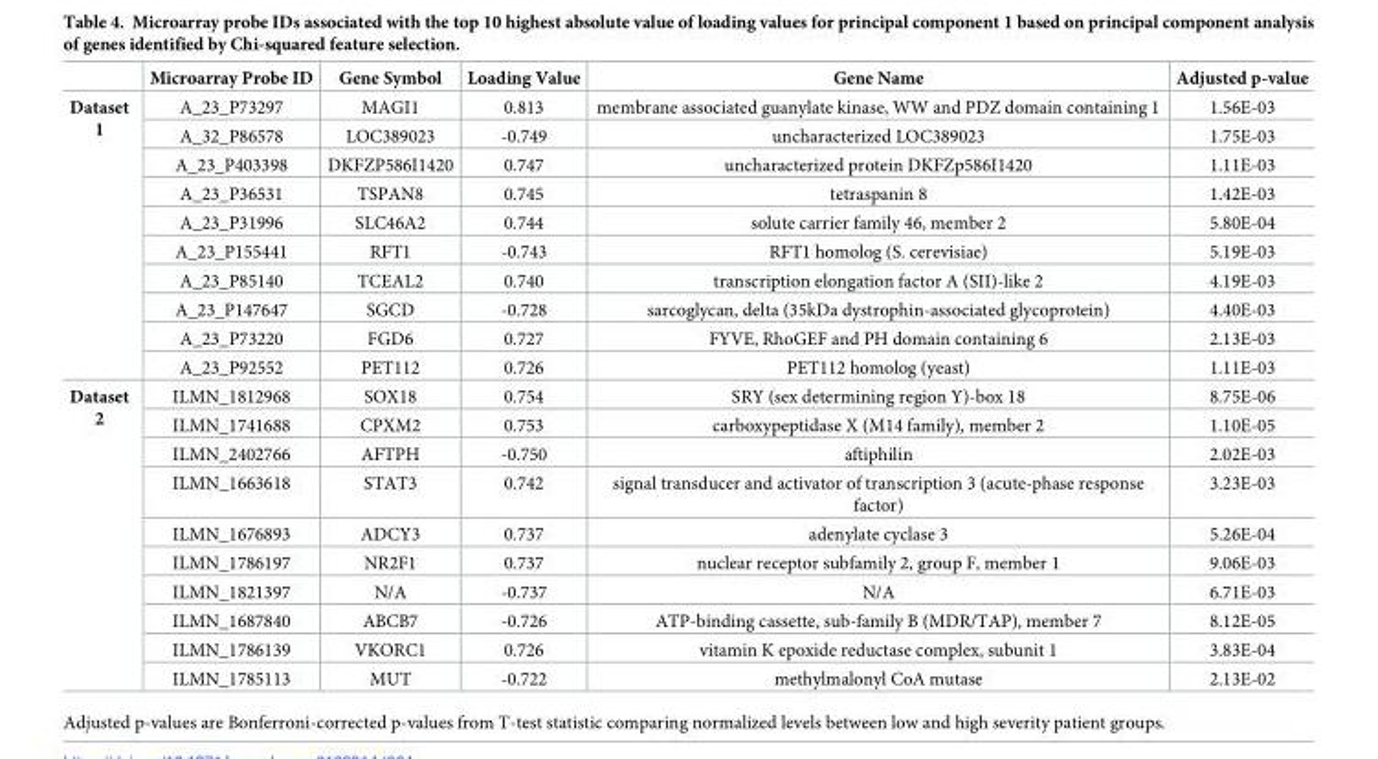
<table><thead><tr><td></td><td>Microarray Probe ID</td><td>Gene Symbol</td><td>Loading Value</td><td>Gene Name</td><td>Adjusted p-value</td></tr></thead><tbody><tr><td rowspan="10">Dataset 1</td><td>A_23_P73297</td><td>MAGI1</td><td>0.813</td><td>membrane associated guanylate kinase, WW and PDZ domain containing 1</td><td>1.56E-03</td></tr><tr><td>A_32_P86578</td><td>LOC389023</td><td>-0.749</td><td>uncharacterized LOC389023</td><td>1.75E-03</td></tr><tr><td>A_23_P403398</td><td>DKFZP586I1420</td><td>0.747</td><td>uncharacterized protein DKFZp586I1420</td><td>1.11E-03</td></tr><tr><td>A_23_P36531</td><td>TSPAN8</td><td>0.745</td><td>tetraspanin 8</td><td>1.42E-03</td></tr><tr><td>A_23_P31996</td><td>SLC46A2</td><td>0.744</td><td>solute carrier family 46, member 2</td><td>5.80E-04</td></tr><tr><td>A_23_P155441</td><td>RFT1</td><td>-0.743</td><td>RFT1 homolog (S. cerevisiae)</td><td>5.19E-03</td></tr><tr><td>A_23_P85140</td><td>TCEAL2</td><td>0.740</td><td>transcription elongation factor A (SII)-like 2</td><td>4.19E-03</td></tr><tr><td>A_23_P147647</td><td>SGCD</td><td>-0.728</td><td>sarcoglycan, delta (35kDa dystrophin-associated glycoprotein)</td><td>4.40E-03</td></tr><tr><td>A_23_P73220</td><td>FGD6</td><td>0.727</td><td>FYVE, RhoGEF and PH domain containing 6</td><td>2.13E-03</td></tr><tr><td>A_23_P92552</td><td>PET112</td><td>0.726</td><td>PET112 homolog (yeast)</td><td>1.11E-03</td></tr><tr><td rowspan="10">Dataset 2</td><td>ILMN_1812968</td><td>SOX18</td><td>0.754</td><td>SRY (sex determining region Y)-box 18</td><td>8.75E-06</td></tr><tr><td>ILMN_1741688</td><td>CPXM2</td><td>0.753</td><td>carboxypeptidase X (M14 family), member 2</td><td>1.10E-05</td></tr><tr><td>ILMN_2402766</td><td>AFTPH</td><td>-0.750</td><td>aftiphilin</td><td>2.02E-03</td></tr><tr><td>ILMN_1663618</td><td>STAT3</td><td>0.742</td><td>signal transducer and activator of transcription 3 (acute-phase response factor)</td><td>3.23E-03</td></tr><tr><td>ILMN_1676893</td><td>ADCY3</td><td>0.737</td><td>adenylate cyclase 3</td><td>5.26E-04</td></tr><tr><td>ILMN_1786197</td><td>NR2F1</td><td>0.737</td><td>nuclear receptor subfamily 2, group F, member 1</td><td>9.06E-03</td></tr><tr><td>ILMN_1821397</td><td>N/A</td><td>-0.737</td><td>N/A</td><td>6.71E-03</td></tr><tr><td>ILMN_1687840</td><td>ABCB7</td><td>-0.726</td><td>ATP-binding cassette, sub-family B (MDR/TAP), member 7</td><td>8.12E-05</td></tr><tr><td>ILMN_1786139</td><td>VKORC1</td><td>0.726</td><td>vitamin K epoxide reductase complex, subunit 1</td><td>3.83E-04</td></tr><tr><td>ILMN_1785113</td><td>MUT</td><td>-0.722</td><td>methylmalonyl CoA mutase</td><td>2.13E-02</td></tr></tbody></table>